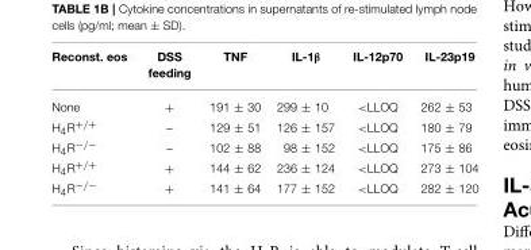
<table><thead><tr><td>Reconst. eos</td><td>DSS feeding</td><td>TNF</td><td>IL-1β</td><td>IL-12p70</td><td>IL-23p19</td></tr></thead><tbody><tr><td>None</td><td>+</td><td>191 ± 30</td><td>299 ± 10</td><td>&lt;LLOQ</td><td>262 ± 53</td></tr><tr><td>H<sub>4</sub>R<sup>+/+</sup></td><td>–</td><td>129 ± 51</td><td>126 ± 157</td><td>&lt;LLOQ</td><td>180 ± 79</td></tr><tr><td>H<sub>4</sub>R<sup>−/−</sup></td><td>–</td><td>102 ± 88</td><td>98 ± 152</td><td>&lt;LLOQ</td><td>175 ± 86</td></tr><tr><td>H<sub>4</sub>R<sup>+/+</sup></td><td>+</td><td>144 ± 62</td><td>236 ± 124</td><td>&lt;LLOQ</td><td>273 ± 104</td></tr><tr><td>H<sub>4</sub>R<sup>−/−</sup></td><td>+</td><td>141 ± 64</td><td>177 ± 152</td><td>&lt;LLOQ</td><td>282 ± 120</td></tr></tbody></table>